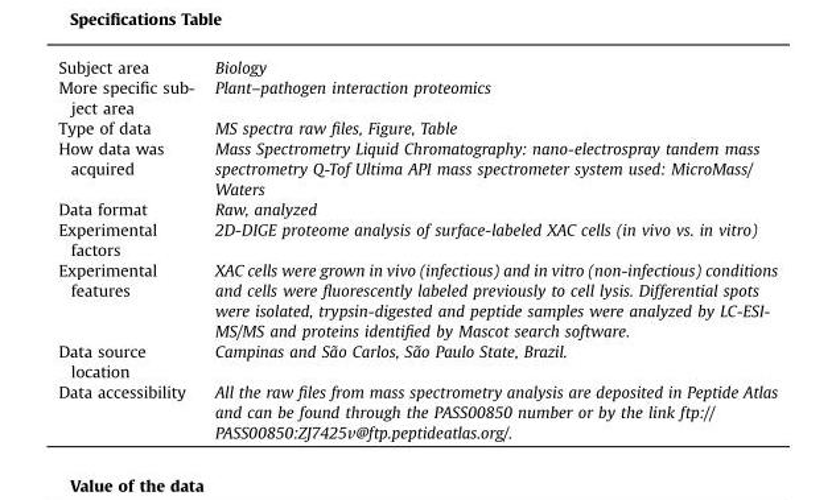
<table><tbody><tr><td>Subject area</td><td>Biology</td></tr><tr><td>More specific sub- ject area</td><td>Plant–pathogen interaction proteomics</td></tr><tr><td>Type of data</td><td>MS spectra raw files, Figure, Table</td></tr><tr><td>How data was acquired</td><td>Mass Spectrometry Liquid Chromatography: nano-electrospray tandem mass spectrometry Q-Tof Ultima API mass spectrometer system used: MicroMass/ Waters</td></tr><tr><td>Data format</td><td>Raw, analyzed</td></tr><tr><td>Experimental factors</td><td>2D-DIGE proteome analysis of surface-labeled XAC cells (in vivo vs. in vitro)</td></tr><tr><td>Experimental features</td><td>XAC cells were grown in vivo (infectious) and in vitro (non-infectious) conditions and cells were fluorescently labeled previously to cell lysis. Differential spots were isolated, trypsin-digested and peptide samples were analyzed by LC-ESI- MS/MS and proteins identified by Mascot search software.</td></tr><tr><td>Data source location</td><td>Campinas and São Carlos, São Paulo State, Brazil.</td></tr><tr><td>Data accessibility</td><td>All the raw files from mass spectrometry analysis are deposited in Peptide Atlas and can be found through the PASS00850 number or by the link ftp:// PASS00850:ZJ7425v@ftp.peptideatlas.org/.</td></tr></tbody></table>